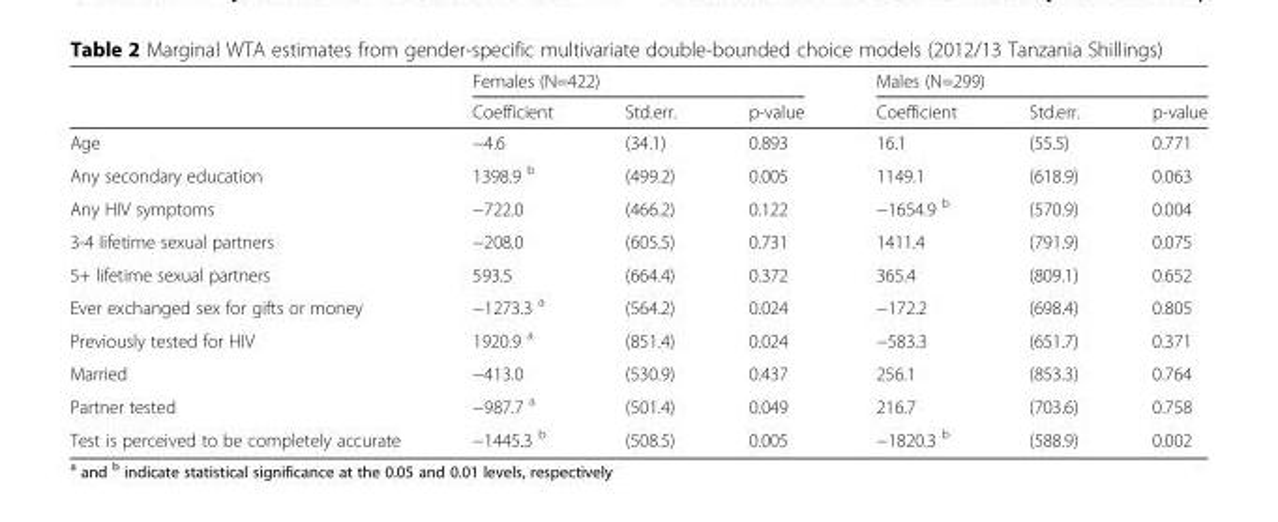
<table><thead><tr><td rowspan="2"></td><td colspan="3">Females (N=422)</td><td colspan="3">Males (N=299)</td></tr><tr><td>Coefficient</td><td>Std.err.</td><td>p-value</td><td>Coefficient</td><td>Std.err.</td><td>p-value</td></tr></thead><tbody><tr><td>Age</td><td>−4.6</td><td>(34.1)</td><td>0.893</td><td>16.1</td><td>(55.5)</td><td>0.771</td></tr><tr><td>Any secondary education</td><td>1398.9 <sup>b</sup></td><td>(499.2)</td><td>0.005</td><td>1149.1</td><td>(618.9)</td><td>0.063</td></tr><tr><td>Any HIV symptoms</td><td>−722.0</td><td>(466.2)</td><td>0.122</td><td>−1654.9 <sup>b</sup></td><td>(570.9)</td><td>0.004</td></tr><tr><td>3-4 lifetime sexual partners</td><td>−208.0</td><td>(605.5)</td><td>0.731</td><td>1411.4</td><td>(791.9)</td><td>0.075</td></tr><tr><td>5+ lifetime sexual partners</td><td>593.5</td><td>(664.4)</td><td>0.372</td><td>365.4</td><td>(809.1)</td><td>0.652</td></tr><tr><td>Ever exchanged sex for gifts or money</td><td>−1273.3 <sup>a</sup></td><td>(564.2)</td><td>0.024</td><td>−172.2</td><td>(698.4)</td><td>0.805</td></tr><tr><td>Previously tested for HIV</td><td>1920.9 <sup>a</sup></td><td>(851.4)</td><td>0.024</td><td>−583.3</td><td>(651.7)</td><td>0.371</td></tr><tr><td>Married</td><td>−413.0</td><td>(530.9)</td><td>0.437</td><td>256.1</td><td>(853.3)</td><td>0.764</td></tr><tr><td>Partner tested</td><td>−987.7 <sup>a</sup></td><td>(501.4)</td><td>0.049</td><td>216.7</td><td>(703.6)</td><td>0.758</td></tr><tr><td>Test is perceived to be completely accurate</td><td>−1445.3 <sup>b</sup></td><td>(508.5)</td><td>0.005</td><td>−1820.3 <sup>b</sup></td><td>(588.9)</td><td>0.002</td></tr></tbody></table>